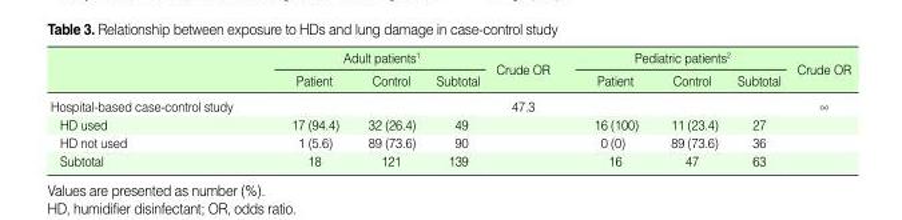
<table><thead><tr><td rowspan="2"></td><td colspan="3">Adult patients<sup>1</sup></td><td rowspan="2">Crude OR</td><td colspan="3">Pediatric patients<sup>2</sup></td><td rowspan="2">Crude OR</td></tr><tr><td>Patient</td><td>Control</td><td>Subtotal</td><td>Patient</td><td>Control</td><td>Subtotal</td></tr></thead><tbody><tr><td>Hospital-based case-control study</td><td></td><td></td><td></td><td>47.3</td><td></td><td></td><td></td><td>∞</td></tr><tr><td>HD used</td><td>17 (94.4)</td><td>32 (26.4)</td><td>49</td><td></td><td>16 (100)</td><td>11 (23.4)</td><td>27</td><td></td></tr><tr><td>HD not used</td><td>1 (5.6)</td><td>89 (73.6)</td><td>90</td><td></td><td>0 (0)</td><td>89 (73.6)</td><td>36</td><td></td></tr><tr><td>Subtotal</td><td>18</td><td>121</td><td>139</td><td></td><td>16</td><td>47</td><td>63</td><td></td></tr></tbody></table>